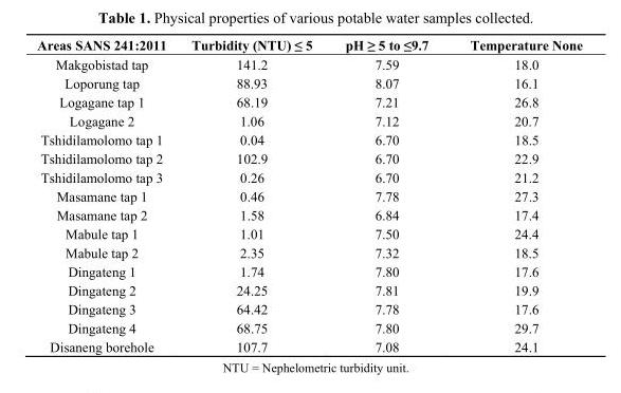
<table><thead><tr><td>Areas SANS 241:2011</td><td>Turbidity (NTU) ≤ 5</td><td>pH ≥ 5 to ≤9.7</td><td>Temperature None</td></tr></thead><tbody><tr><td>Makgobistad tap</td><td>141.2</td><td>7.59</td><td>18.0</td></tr><tr><td>Loporung tap</td><td>88.93</td><td>8.07</td><td>16.1</td></tr><tr><td>Logagane tap 1</td><td>68.19</td><td>7.21</td><td>26.8</td></tr><tr><td>Logagane 2</td><td>1.06</td><td>7.12</td><td>20.7</td></tr><tr><td>Tshidilamolomo tap 1</td><td>0.04</td><td>6.70</td><td>18.5</td></tr><tr><td>Tshidilamolomo tap 2</td><td>102.9</td><td>6.70</td><td>22.9</td></tr><tr><td>Tshidilamolomo tap 3</td><td>0.26</td><td>6.70</td><td>21.2</td></tr><tr><td>Masamane tap 1</td><td>0.46</td><td>7.78</td><td>27.3</td></tr><tr><td>Masamane tap 2</td><td>1.58</td><td>6.84</td><td>17.4</td></tr><tr><td>Mabule tap 1</td><td>1.01</td><td>7.50</td><td>24.4</td></tr><tr><td>Mabule tap 2</td><td>2.35</td><td>7.32</td><td>18.5</td></tr><tr><td>Dingateng 1</td><td>1.74</td><td>7.80</td><td>17.6</td></tr><tr><td>Dingateng 2</td><td>24.25</td><td>7.81</td><td>19.9</td></tr><tr><td>Dingateng 3</td><td>64.42</td><td>7.78</td><td>17.6</td></tr><tr><td>Dingateng 4</td><td>68.75</td><td>7.80</td><td>29.7</td></tr><tr><td>Disaneng borehole</td><td>107.7</td><td>7.08</td><td>24.1</td></tr></tbody></table>